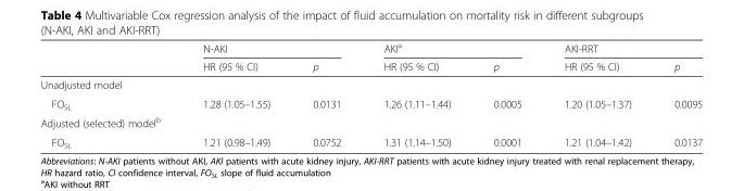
<table><thead><tr><td rowspan="2"></td><td colspan="2">N-AKI</td><td colspan="2">AKI<sup>a</sup></td><td colspan="2">AKI-RRT</td></tr><tr><td>HR (95 % CI)</td><td>p</td><td>HR (95 % CI)</td><td>p</td><td>HR (95 % CI)</td><td>p</td></tr></thead><tbody><tr><td colspan="7">Unadjusted model</td></tr><tr><td>FO<sub>SL</sub></td><td>1.28 (1.05–1.55)</td><td>0.0131</td><td>1.26 (1.11–1.44)</td><td>0.0005</td><td>1.20 (1.05–1.37)</td><td>0.0095</td></tr><tr><td colspan="7">Adjusted (selected) model<sup>b</sup></td></tr><tr><td>FO<sub>SL</sub></td><td>1.21 (0.98–1.49)</td><td>0.0752</td><td>1.31 (1.14–1.50)</td><td>0.0001</td><td>1.21 (1.04–1.42)</td><td>0.0137</td></tr></tbody></table>